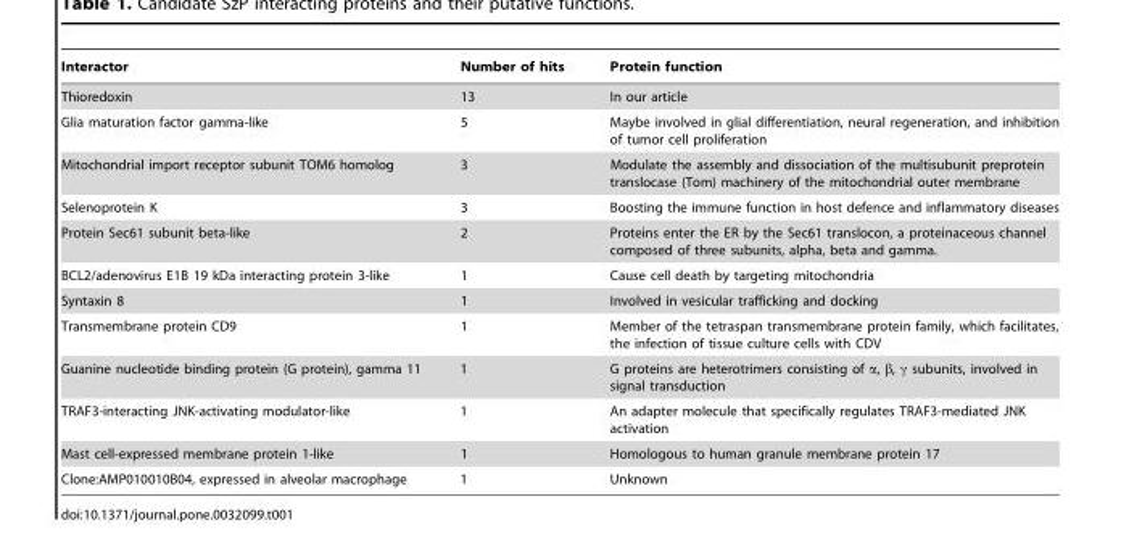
<table><thead><tr><td>Interactor</td><td>Number of hits</td><td>Protein function</td></tr></thead><tbody><tr><td>Thioredoxin</td><td>13</td><td>In our article</td></tr><tr><td>Glia maturation factor gamma-like</td><td>5</td><td>Maybe involved in glial differentiation, neural regeneration, and inhibition of tumor cell proliferation</td></tr><tr><td>Mitochondrial import receptor subunit TOM6 homolog</td><td>3</td><td>Modulate the assembly and dissociation of the multisubunit preprotein translocase (Tom) machinery of the mitochondrial outer membrane</td></tr><tr><td>Selenoprotein K</td><td>3</td><td>Boosting the immune function in host defence and inflammatory diseases</td></tr><tr><td>Protein Sec61 subunit beta-like</td><td>2</td><td>Proteins enter the ER by the Sec61 translocon, a proteinaceous channel composed of three subunits, alpha, beta and gamma.</td></tr><tr><td>BCL2/adenovirus E1B 19 kDa interacting protein 3-like</td><td>1</td><td>Cause cell death by targeting mitochondria</td></tr><tr><td>Syntaxin 8</td><td>1</td><td>Involved in vesicular trafficking and docking</td></tr><tr><td>Transmembrane protein CD9</td><td>1</td><td>Member of the tetraspan transmembrane protein family, which facilitates, the infection of tissue culture cells with CDV</td></tr><tr><td>Guanine nucleotide binding protein (G protein), gamma 11</td><td>1</td><td>G proteins are heterotrimers consisting of α, β, γ subunits, involved in signal transduction</td></tr><tr><td>TRAF3-interacting JNK-activating modulator-like</td><td>1</td><td>An adapter molecule that specifically regulates TRAF3-mediated JNK activation</td></tr><tr><td>Mast cell-expressed membrane protein 1-like</td><td>1</td><td>Homologous to human granule membrane protein 17</td></tr><tr><td>Clone:AMP010010B04, expressed in alveolar macrophage</td><td>1</td><td>Unknown</td></tr></tbody></table>